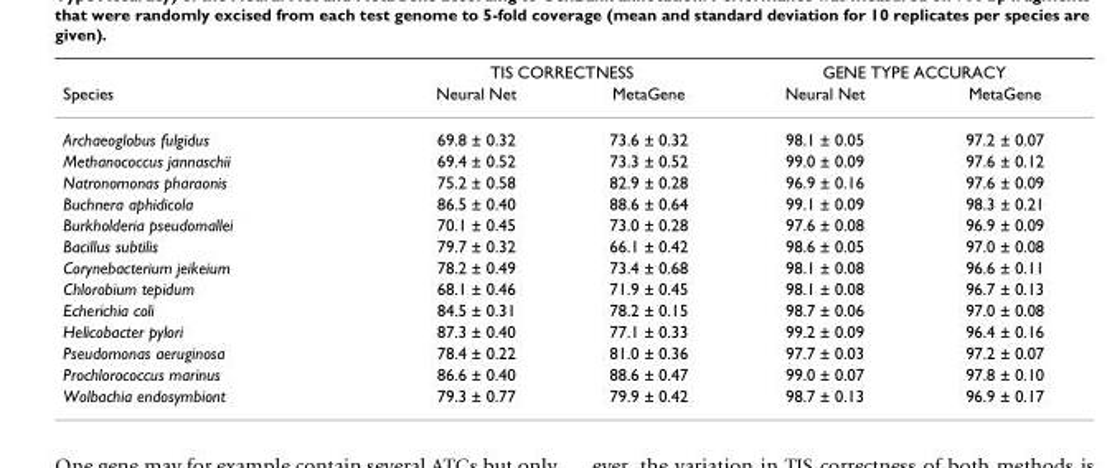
<table><thead><tr><td rowspan="2">Species</td><td colspan="2">TIS CORRECTNESS</td><td colspan="2">GENE TYPE ACCURACY</td></tr><tr><td>Neural Net</td><td>MetaGene</td><td>Neural Net</td><td>MetaGene</td></tr></thead><tbody><tr><td>Archaeoglobus fulgidus</td><td>69.8 ± 0.32</td><td>73.6 ± 0.32</td><td>98.1 ± 0.05</td><td>97.2 ± 0.07</td></tr><tr><td>Methanococcus jannaschii</td><td>69.4 ± 0.52</td><td>73.3 ± 0.52</td><td>99.0 ± 0.09</td><td>97.6 ± 0.12</td></tr><tr><td>Natronomonas pharaonis</td><td>75.2 ± 0.58</td><td>82.9 ± 0.28</td><td>96.9 ± 0.16</td><td>97.6 ± 0.09</td></tr><tr><td>Buchnera aphidicola</td><td>86.5 ± 0.40</td><td>88.6 ± 0.64</td><td>99.1 ± 0.09</td><td>98.3 ± 0.21</td></tr><tr><td>Burkholderia pseudomallei</td><td>70.1 ± 0.45</td><td>73.0 ± 0.28</td><td>97.6 ± 0.08</td><td>96.9 ± 0.09</td></tr><tr><td>Bacillus subtilis</td><td>79.7 ± 0.32</td><td>66.1 ± 0.42</td><td>98.6 ± 0.05</td><td>97.0 ± 0.08</td></tr><tr><td>Corynebacterium jeikeium</td><td>78.2 ± 0.49</td><td>73.4 ± 0.68</td><td>98.1 ± 0.08</td><td>96.6 ± 0.11</td></tr><tr><td>Chlorobium tepidum</td><td>68.1 ± 0.46</td><td>71.9 ± 0.45</td><td>98.1 ± 0.08</td><td>96.7 ± 0.13</td></tr><tr><td>Echerichia coli</td><td>84.5 ± 0.31</td><td>78.2 ± 0.15</td><td>98.7 ± 0.06</td><td>97.0 ± 0.08</td></tr><tr><td>Helicobacter pylori</td><td>87.3 ± 0.40</td><td>77.1 ± 0.33</td><td>99.2 ± 0.09</td><td>96.4 ± 0.16</td></tr><tr><td>Pseudomonas aeruginosa</td><td>78.4 ± 0.22</td><td>81.0 ± 0.36</td><td>97.7 ± 0.03</td><td>97.2 ± 0.07</td></tr><tr><td>Prochlorococcus marinus</td><td>86.6 ± 0.40</td><td>88.6 ± 0.47</td><td>99.0 ± 0.07</td><td>97.8 ± 0.10</td></tr><tr><td>Wolbachia endosymbiont</td><td>79.3 ± 0.77</td><td>79.9 ± 0.42</td><td>98.7 ± 0.13</td><td>96.9 ± 0.17</td></tr></tbody></table>